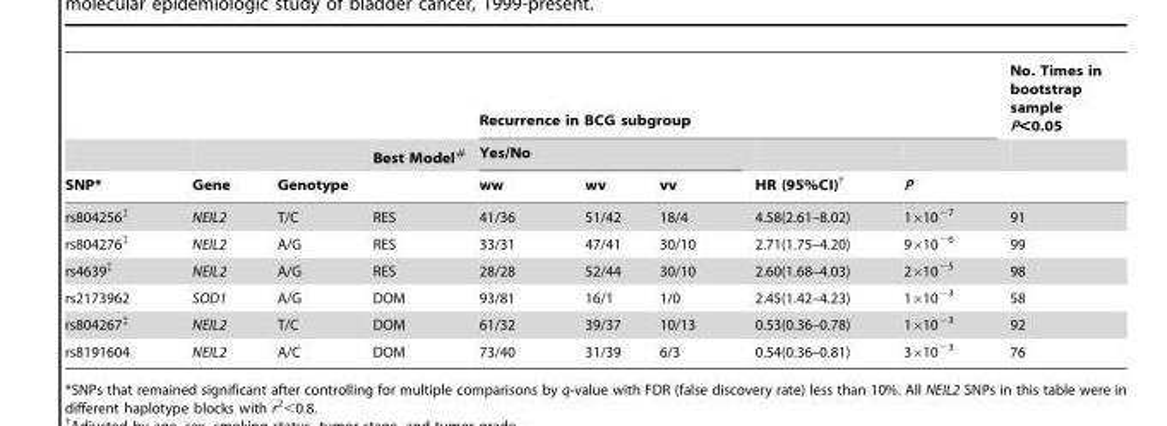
<table><thead><tr><td rowspan="3">SNP*</td><td rowspan="3">Gene</td><td rowspan="3">Genotype</td><td rowspan="3">Best Model#</td><td colspan="5">Recurrence in BCG subgroup</td><td rowspan="3">No. Times in bootstrap sample P&lt;0.05</td></tr><tr><td colspan="3">Yes/No</td><td rowspan="2">HR (95%CI)†</td><td rowspan="2">P</td></tr><tr><td>ww</td><td>wv</td><td>vv</td></tr></thead><tbody><tr><td>rs804256‡</td><td>NEIL2</td><td>T/C</td><td>RES</td><td>41/36</td><td>51/42</td><td>18/4</td><td>4.58(2.61–8.02)</td><td>1×10<sup>−7</sup></td><td>91</td></tr><tr><td>rs804276‡</td><td>NEIL2</td><td>A/G</td><td>RES</td><td>33/31</td><td>47/41</td><td>30/10</td><td>2.71(1.75–4.20)</td><td>9×10<sup>−6</sup></td><td>99</td></tr><tr><td>rs4639‡</td><td>NEIL2</td><td>A/G</td><td>RES</td><td>28/28</td><td>52/44</td><td>30/10</td><td>2.60(1.68–4.03)</td><td>2×10<sup>−5</sup></td><td>98</td></tr><tr><td>rs2173962</td><td>SOD1</td><td>A/G</td><td>DOM</td><td>93/81</td><td>16/1</td><td>1/0</td><td>2.45(1.42–4.23)</td><td>1×10<sup>−3</sup></td><td>58</td></tr><tr><td>rs804267‡</td><td>NEIL2</td><td>T/C</td><td>DOM</td><td>61/32</td><td>39/37</td><td>10/13</td><td>0.53(0.36–0.78)</td><td>1×10<sup>−3</sup></td><td>92</td></tr><tr><td>rs8191604</td><td>NEIL2</td><td>A/C</td><td>DOM</td><td>73/40</td><td>31/39</td><td>6/3</td><td>0.54(0.36–0.81)</td><td>3×10<sup>−3</sup></td><td>76</td></tr></tbody></table>